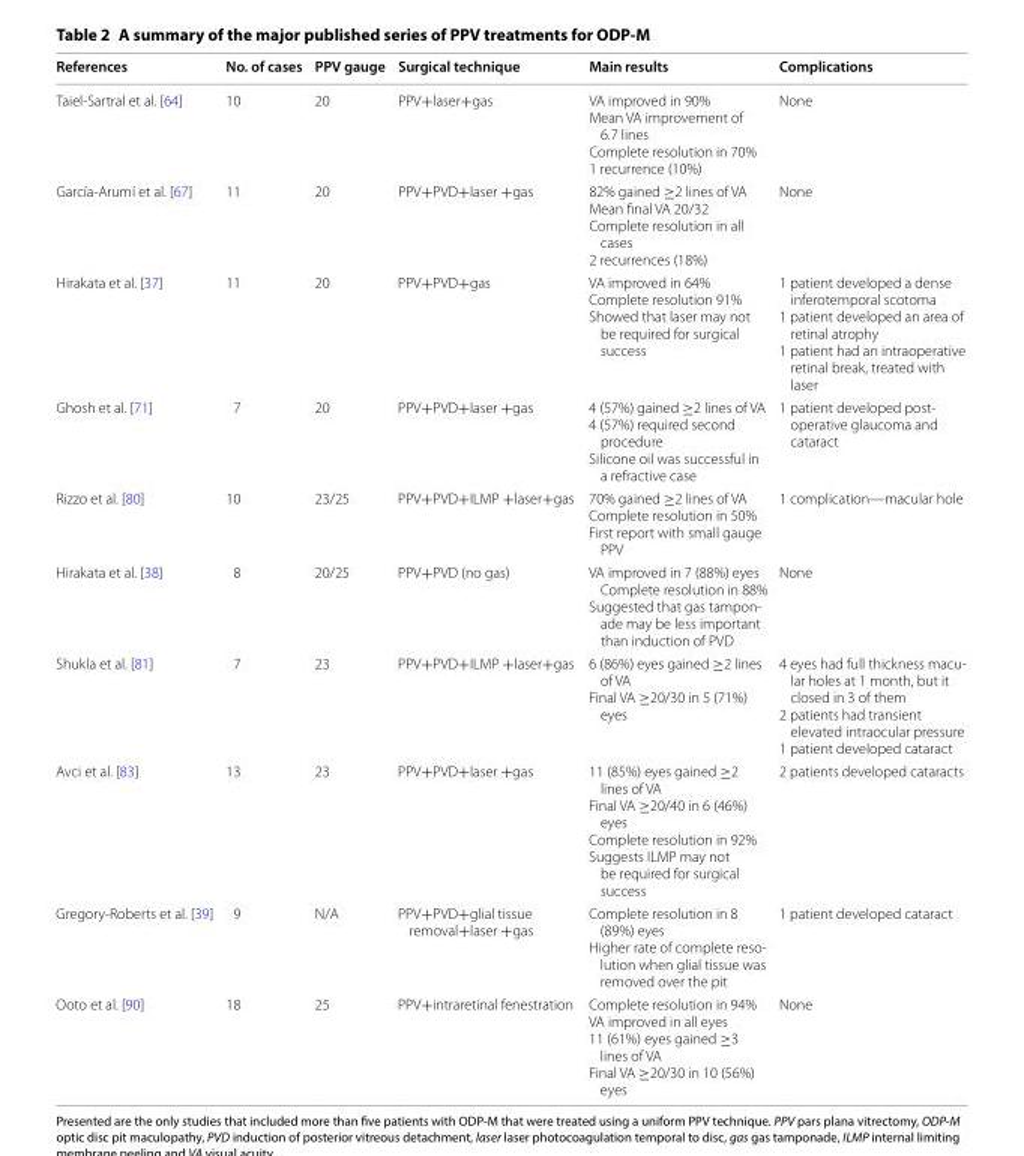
<table><thead><tr><td>References</td><td>No. of cases</td><td>PPV gauge</td><td>Surgical technique</td><td>Main results</td><td>Complications</td></tr></thead><tbody><tr><td>Taiel-Sartral et al. [64]</td><td>10</td><td>20</td><td>PPV+laser+gas</td><td>VA improved in 90% Mean VA improvement of 6.7 lines Complete resolution in 70% 1 recurrence (10%)</td><td>None</td></tr><tr><td>García-Arumí et al. [67]</td><td>11</td><td>20</td><td>PPV+PVD+laser +gas</td><td>82% gained ≥2 lines of VA Mean final VA 20/32 Complete resolution in all cases 2 recurrences (18%)</td><td>None</td></tr><tr><td>Hirakata et al. [37]</td><td>11</td><td>20</td><td>PPV+PVD+gas</td><td>VA improved in 64% Complete resolution 91% Showed that laser may not be required for surgical success</td><td>1 patient developed a dense inferotemporal scotoma 1 patient developed an area of retinal atrophy 1 patient had an intraoperative retinal break, treated with laser</td></tr><tr><td>Ghosh et al. [71]</td><td>7</td><td>20</td><td>PPV+PVD+laser +gas</td><td>4 (57%) gained ≥2 lines of VA 4 (57%) required second procedure Silicone oil was successful in a refractive case</td><td>1 patient developed post- operative glaucoma and cataract</td></tr><tr><td>Rizzo et al. [80]</td><td>10</td><td>23/25</td><td>PPV+PVD+ILMP +laser+gas</td><td>70% gained ≥2 lines of VA Complete resolution in 50% First report with small gauge PPV</td><td>1 complication—macular hole</td></tr><tr><td>Hirakata et al. [38]</td><td>8</td><td>20/25</td><td>PPV+PVD (no gas)</td><td>VA improved in 7 (88%) eyes Complete resolution in 88% Suggested that gas tampon- ade may be less important than induction of PVD</td><td>None</td></tr><tr><td>Shukla et al. [81]</td><td>7</td><td>23</td><td>PPV+PVD+ILMP +laser+gas</td><td>6 (86%) eyes gained ≥2 lines of VA Final VA ≥20/30 in 5 (71%) eyes</td><td>4 eyes had full thickness macu- lar holes at 1 month, but it closed in 3 of them 2 patients had transient elevated intraocular pressure 1 patient developed cataract</td></tr><tr><td>Avci et al. [83]</td><td>13</td><td>23</td><td>PPV+PVD+laser +gas</td><td>11 (85%) eyes gained ≥2 lines of VA Final VA ≥20/40 in 6 (46%) eyes Complete resolution in 92% Suggests ILMP may not be required for surgical success</td><td>2 patients developed cataracts</td></tr><tr><td>Gregory-Roberts et al. [39]</td><td>9</td><td>N/A</td><td>PPV+PVD+glial tissue removal+laser +gas</td><td>Complete resolution in 8 (89%) eyes Higher rate of complete reso- lution when glial tissue was removed over the pit</td><td>1 patient developed cataract</td></tr><tr><td>Ooto et al. [90]</td><td>18</td><td>25</td><td>PPV+intraretinal fenestration</td><td>Complete resolution in 94% VA improved in all eyes 11 (61%) eyes gained ≥3 lines of VA Final VA ≥20/30 in 10 (56%) eyes</td><td>None</td></tr></tbody></table>